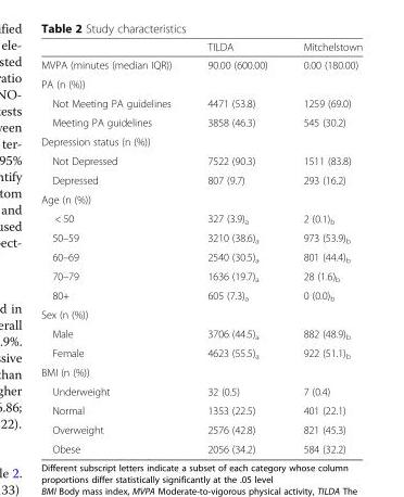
<table><thead><tr><td></td><td>TILDA</td><td>Mitchelstown</td></tr></thead><tbody><tr><td>MVPA (minutes (median IQR))</td><td>90.00 (600.00)</td><td>0.00 (180.00)</td></tr><tr><td colspan="3">PA (n (%))</td></tr><tr><td>Not Meeting PA guidelines</td><td>4471 (53.8)</td><td>1259 (69.0)</td></tr><tr><td>Meeting PA guidelines</td><td>3858 (46.3)</td><td>545 (30.2)</td></tr><tr><td colspan="3">Depression status (n (%))</td></tr><tr><td>Not Depressed</td><td>7522 (90.3)</td><td>1511 (83.8)</td></tr><tr><td>Depressed</td><td>807 (9.7)</td><td>293 (16.2)</td></tr><tr><td colspan="3">Age (n (%))</td></tr><tr><td>&lt; 50</td><td>327 (3.9)<sub>a</sub></td><td>2 (0.1)<sub>b</sub></td></tr><tr><td>50–59</td><td>3210 (38.6)<sub>a</sub></td><td>973 (53.9)<sub>b</sub></td></tr><tr><td>60–69</td><td>2540 (30.5)<sub>a</sub></td><td>801 (44.4)<sub>b</sub></td></tr><tr><td>70–79</td><td>1636 (19.7)<sub>a</sub></td><td>28 (1.6)<sub>b</sub></td></tr><tr><td>80+</td><td>605 (7.3)<sub>a</sub></td><td>0 (0.0)<sub>b</sub></td></tr><tr><td colspan="3">Sex (n (%))</td></tr><tr><td>Male</td><td>3706 (44.5)<sub>a</sub></td><td>882 (48.9)<sub>b</sub></td></tr><tr><td>Female</td><td>4623 (55.5)<sub>a</sub></td><td>922 (51.1)<sub>b</sub></td></tr><tr><td colspan="3">BMI (n (%))</td></tr><tr><td>Underweight</td><td>32 (0.5)</td><td>7 (0.4)</td></tr><tr><td>Normal</td><td>1353 (22.5)</td><td>401 (22.1)</td></tr><tr><td>Overweight</td><td>2576 (42.8)</td><td>821 (45.3)</td></tr><tr><td>Obese</td><td>2056 (34.2)</td><td>584 (32.2)</td></tr></tbody></table>